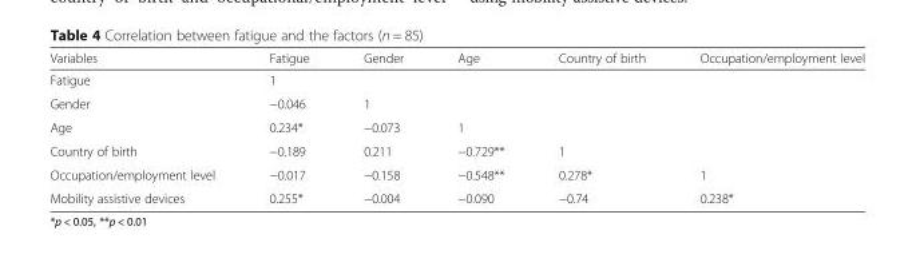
<table><thead><tr><td>Variables</td><td>Fatigue</td><td>Gender</td><td>Age</td><td>Country of birth</td><td>Occupation/employment level</td></tr></thead><tbody><tr><td>Fatigue</td><td>1</td><td></td><td></td><td></td><td></td></tr><tr><td>Gender</td><td>−0.046</td><td>1</td><td></td><td></td><td></td></tr><tr><td>Age</td><td>0.234*</td><td>−0.073</td><td>1</td><td></td><td></td></tr><tr><td>Country of birth</td><td>−0.189</td><td>0.211</td><td>−0.729**</td><td>1</td><td></td></tr><tr><td>Occupation/employment level</td><td>−0.017</td><td>−0.158</td><td>−0.548**</td><td>0.278*</td><td>1</td></tr><tr><td>Mobility assistive devices</td><td>0.255*</td><td>−0.004</td><td>−0.090</td><td>−0.74</td><td>0.238*</td></tr></tbody></table>